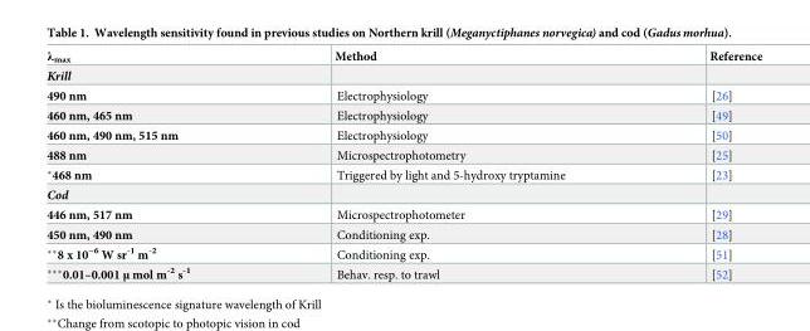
<table><thead><tr><td>λ<sub>max</sub></td><td>Method</td><td>Reference</td></tr></thead><tbody><tr><td colspan="3">Krill</td></tr><tr><td>490 nm</td><td>Electrophysiology</td><td>[26]</td></tr><tr><td>460 nm, 465 nm</td><td>Electrophysiology</td><td>[49]</td></tr><tr><td>460 nm, 490 nm, 515 nm</td><td>Electrophysiology</td><td>[50]</td></tr><tr><td>488 nm</td><td>Microspectrophotometry</td><td>[25]</td></tr><tr><td>*468 nm</td><td>Triggered by light and 5-hydroxy tryptamine</td><td>[23]</td></tr><tr><td colspan="3">Cod</td></tr><tr><td>446 nm, 517 nm</td><td>Microspectrophotometer</td><td>[29]</td></tr><tr><td>450 nm, 490 nm</td><td>Conditioning exp.</td><td>[28]</td></tr><tr><td>**8 x 10<sup>−6</sup> W sr<sup>-1</sup> m<sup>-2</sup></td><td>Conditioning exp.</td><td>[51]</td></tr><tr><td>***0.01–0.001 μ mol m<sup>-2</sup> s<sup>-1</sup></td><td>Behav. resp. to trawl</td><td>[52]</td></tr></tbody></table>